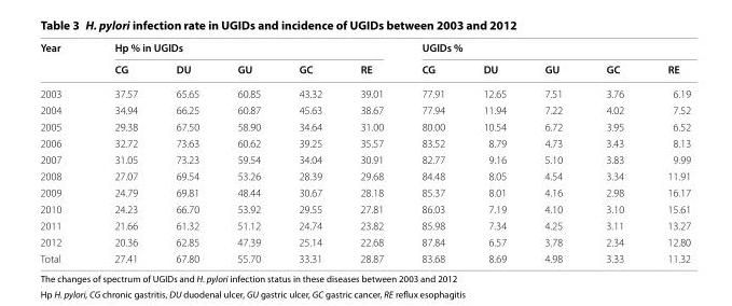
<table><thead><tr><td rowspan="2">Year</td><td colspan="5">Hp % in UGIDs</td><td colspan="5">UGIDs %</td></tr><tr><td>CG</td><td>DU</td><td>GU</td><td>GC</td><td>RE</td><td>CG</td><td>DU</td><td>GU</td><td>GC</td><td>RE</td></tr></thead><tbody><tr><td>2003</td><td>37.57</td><td>65.65</td><td>60.85</td><td>43.32</td><td>39.01</td><td>77.91</td><td>12.65</td><td>7.51</td><td>3.76</td><td>6.19</td></tr><tr><td>2004</td><td>34.94</td><td>66.25</td><td>60.87</td><td>45.63</td><td>38.67</td><td>77.94</td><td>11.94</td><td>7.22</td><td>4.02</td><td>7.52</td></tr><tr><td>2005</td><td>29.38</td><td>67.50</td><td>58.90</td><td>34.64</td><td>31.00</td><td>80.00</td><td>10.54</td><td>6.72</td><td>3.95</td><td>6.52</td></tr><tr><td>2006</td><td>32.72</td><td>73.63</td><td>60.62</td><td>39.25</td><td>35.57</td><td>83.52</td><td>8.79</td><td>4.73</td><td>3.43</td><td>8.13</td></tr><tr><td>2007</td><td>31.05</td><td>73.23</td><td>59.54</td><td>34.04</td><td>30.91</td><td>82.77</td><td>9.16</td><td>5.10</td><td>3.83</td><td>9.99</td></tr><tr><td>2008</td><td>27.07</td><td>69.54</td><td>53.26</td><td>28.39</td><td>29.68</td><td>84.48</td><td>8.05</td><td>4.54</td><td>3.34</td><td>11.91</td></tr><tr><td>2009</td><td>24.79</td><td>69.81</td><td>48.44</td><td>30.67</td><td>28.18</td><td>85.37</td><td>8.01</td><td>4.16</td><td>2.98</td><td>16.17</td></tr><tr><td>2010</td><td>24.23</td><td>66.70</td><td>53.92</td><td>29.55</td><td>27.81</td><td>86.03</td><td>7.19</td><td>4.10</td><td>3.10</td><td>15.61</td></tr><tr><td>2011</td><td>21.66</td><td>61.32</td><td>51.12</td><td>24.74</td><td>23.82</td><td>85.98</td><td>7.34</td><td>4.25</td><td>3.11</td><td>13.27</td></tr><tr><td>2012</td><td>20.36</td><td>62.85</td><td>47.39</td><td>25.14</td><td>22.68</td><td>87.84</td><td>6.57</td><td>3.78</td><td>2.34</td><td>12.80</td></tr><tr><td>Total</td><td>27.41</td><td>67.80</td><td>55.70</td><td>33.31</td><td>28.87</td><td>83.68</td><td>8.69</td><td>4.98</td><td>3.33</td><td>11.32</td></tr></tbody></table>